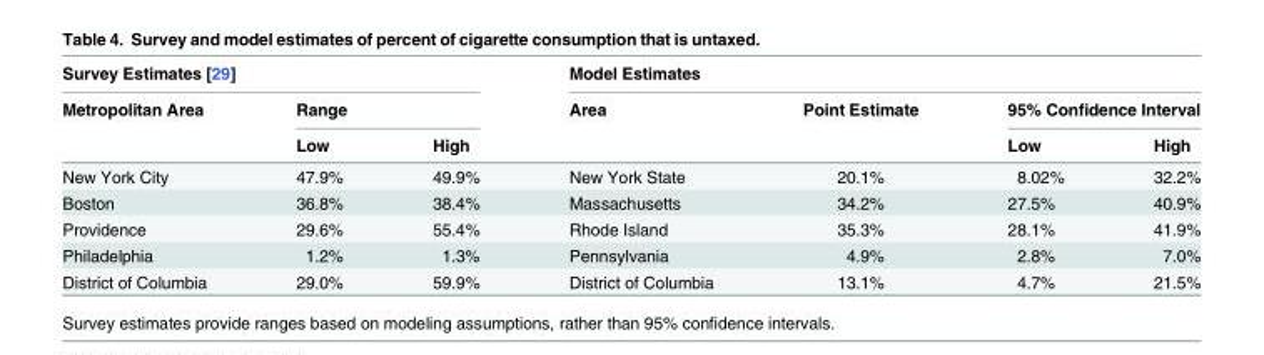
<table><thead><tr><td colspan="3">Survey Estimates [29]</td><td colspan="4">Model Estimates</td></tr><tr><td rowspan="2">Metropolitan Area</td><td colspan="2">Range</td><td rowspan="2">Area</td><td rowspan="2">Point Estimate</td><td colspan="2">95% Confidence Interval</td></tr><tr><td>Low</td><td>High</td><td>Low</td><td>High</td></tr></thead><tbody><tr><td>New York City</td><td>47.9%</td><td>49.9%</td><td>New York State</td><td>20.1%</td><td>8.02%</td><td>32.2%</td></tr><tr><td>Boston</td><td>36.8%</td><td>38.4%</td><td>Massachusetts</td><td>34.2%</td><td>27.5%</td><td>40.9%</td></tr><tr><td>Providence</td><td>29.6%</td><td>55.4%</td><td>Rhode Island</td><td>35.3%</td><td>28.1%</td><td>41.9%</td></tr><tr><td>Philadelphia</td><td>1.2%</td><td>1.3%</td><td>Pennsylvania</td><td>4.9%</td><td>2.8%</td><td>7.0%</td></tr><tr><td>District of Columbia</td><td>29.0%</td><td>59.9%</td><td>District of Columbia</td><td>13.1%</td><td>4.7%</td><td>21.5%</td></tr></tbody></table>